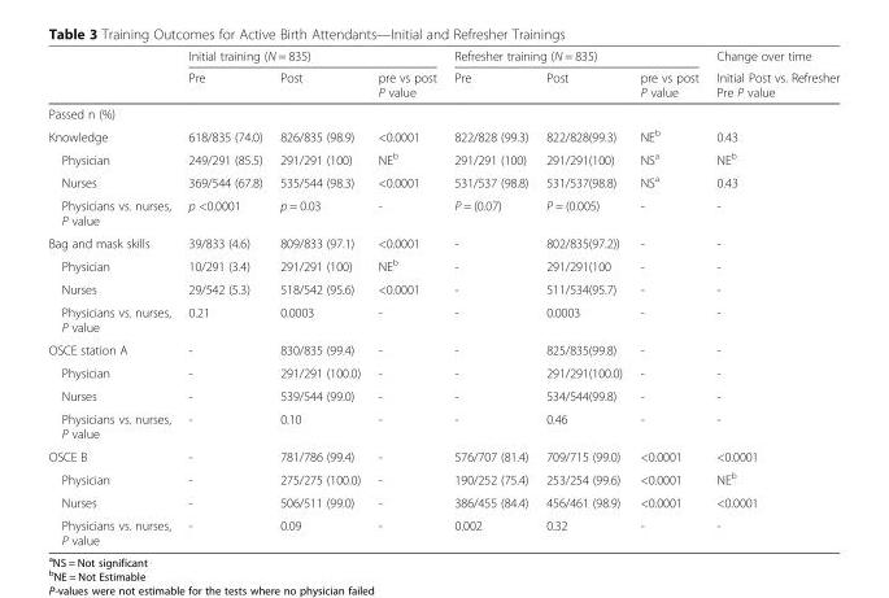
<table><thead><tr><td rowspan="2"></td><td colspan="3">Initial training (N = 835)</td><td colspan="3">Refresher training (N = 835)</td><td rowspan="2">Change over time Initial Post vs. Refresher Pre P value</td></tr><tr><td>Pre</td><td>Post</td><td>pre vs post P value</td><td>Pre</td><td>Post</td><td>pre vs post P value</td></tr></thead><tbody><tr><td colspan="8">Passed n (%)</td></tr><tr><td>Knowledge</td><td>618/835 (74.0)</td><td>826/835 (98.9)</td><td>&lt;0.0001</td><td>822/828 (99.3)</td><td>822/828(99.3)</td><td>NE<sup>b</sup></td><td>0.43</td></tr><tr><td>Physician</td><td>249/291 (85.5)</td><td>291/291 (100)</td><td>NE<sup>b</sup></td><td>291/291 (100)</td><td>291/291(100)</td><td>NS<sup>a</sup></td><td>NE<sup>b</sup></td></tr><tr><td>Nurses</td><td>369/544 (67.8)</td><td>535/544 (98.3)</td><td>&lt;0.0001</td><td>531/537 (98.8)</td><td>531/537(98.8)</td><td>NS<sup>a</sup></td><td>0.43</td></tr><tr><td>Physicians vs. nurses, P value</td><td>p &lt;0.0001</td><td>p = 0.03</td><td>-</td><td>P = (0.07)</td><td>P = (0.005)</td><td>-</td><td>-</td></tr><tr><td>Bag and mask skills</td><td>39/833 (4.6)</td><td>809/833 (97.1)</td><td>&lt;0.0001</td><td>-</td><td>802/835(97.2))</td><td>-</td><td>-</td></tr><tr><td>Physician</td><td>10/291 (3.4)</td><td>291/291 (100)</td><td>NE<sup>b</sup></td><td>-</td><td>291/291(100</td><td>-</td><td>-</td></tr><tr><td>Nurses</td><td>29/542 (5.3)</td><td>518/542 (95.6)</td><td>&lt;0.0001</td><td>-</td><td>511/534(95.7)</td><td>-</td><td>-</td></tr><tr><td>Physicians vs. nurses, P value</td><td>0.21</td><td>0.0003</td><td>-</td><td>-</td><td>0.0003</td><td>-</td><td>-</td></tr><tr><td>OSCE station A</td><td>-</td><td>830/835 (99.4)</td><td>-</td><td>-</td><td>825/835(99.8)</td><td>-</td><td>-</td></tr><tr><td>Physician</td><td>-</td><td>291/291 (100.0)</td><td>-</td><td>-</td><td>291/291(100.0)</td><td>-</td><td>-</td></tr><tr><td>Nurses</td><td>-</td><td>539/544 (99.0)</td><td>-</td><td>-</td><td>534/544(99.8)</td><td>-</td><td>-</td></tr><tr><td>Physicians vs. nurses, P value</td><td>-</td><td>0.10</td><td>-</td><td>-</td><td>0.46</td><td>-</td><td>-</td></tr><tr><td>OSCE B</td><td>-</td><td>781/786 (99.4)</td><td>-</td><td>576/707 (81.4)</td><td>709/715 (99.0)</td><td>&lt;0.0001</td><td>&lt;0.0001</td></tr><tr><td>Physician</td><td>-</td><td>275/275 (100.0)</td><td>-</td><td>190/252 (75.4)</td><td>253/254 (99.6)</td><td>&lt;0.0001</td><td>NE<sup>b</sup></td></tr><tr><td>Nurses</td><td>-</td><td>506/511 (99.0)</td><td>-</td><td>386/455 (84.4)</td><td>456/461 (98.9)</td><td>&lt;0.0001</td><td>&lt;0.0001</td></tr><tr><td>Physicians vs. nurses, P value</td><td>-</td><td>0.09</td><td>-</td><td>0.002</td><td>0.32</td><td>-</td><td>-</td></tr></tbody></table>